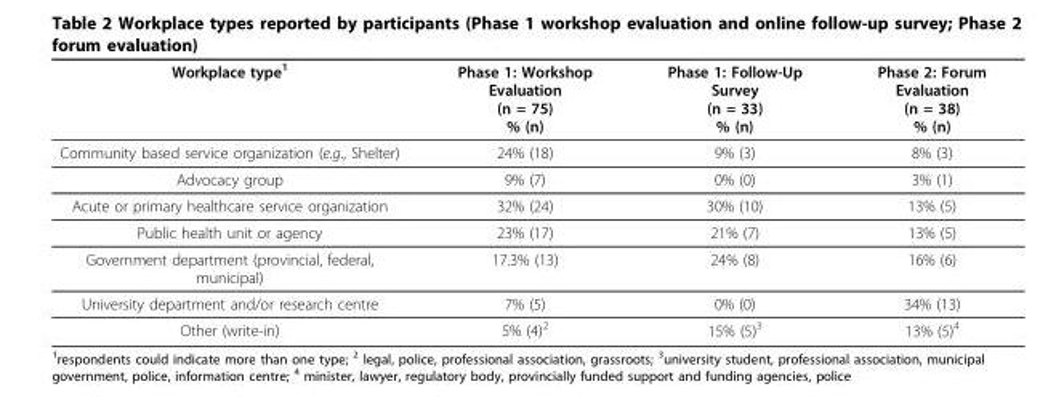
<table><thead><tr><td>Workplace type<sup>1</sup></td><td>Phase 1: Workshop Evaluation (n = 75) % (n)</td><td>Phase 1: Follow-Up Survey (n = 33) % (n)</td><td>Phase 2: Forum Evaluation (n = 38) % (n)</td></tr></thead><tbody><tr><td>Community based service organization (e.g., Shelter)</td><td>24% (18)</td><td>9% (3)</td><td>8% (3)</td></tr><tr><td>Advocacy group</td><td>9% (7)</td><td>0% (0)</td><td>3% (1)</td></tr><tr><td>Acute or primary healthcare service organization</td><td>32% (24)</td><td>30% (10)</td><td>13% (5)</td></tr><tr><td>Public health unit or agency</td><td>23% (17)</td><td>21% (7)</td><td>13% (5)</td></tr><tr><td>Government department (provincial, federal, municipal)</td><td>17.3% (13)</td><td>24% (8)</td><td>16% (6)</td></tr><tr><td>University department and/or research centre</td><td>7% (5)</td><td>0% (0)</td><td>34% (13)</td></tr><tr><td>Other (write-in)</td><td>5% (4)<sup>2</sup></td><td>15% (5)<sup>3</sup></td><td>13% (5)<sup>4</sup></td></tr></tbody></table>